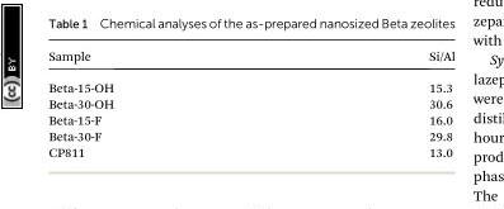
<table><thead><tr><td>Sample</td><td>Si/Al</td></tr></thead><tbody><tr><td>Beta-15-OH</td><td>15.3</td></tr><tr><td>Beta-30-OH</td><td>30.6</td></tr><tr><td>Beta-15-F</td><td>16.0</td></tr><tr><td>Beta-30-F</td><td>29.8</td></tr><tr><td>CP811</td><td>13.0</td></tr></tbody></table>